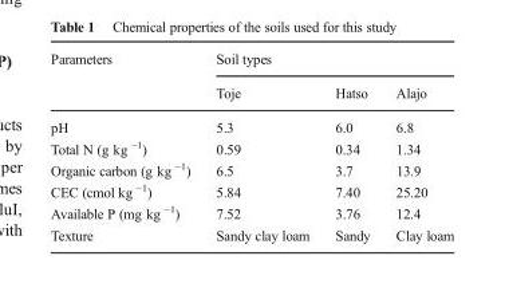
<table><thead><tr><td rowspan="2">Parameters</td><td colspan="3">Soil types</td></tr><tr><td>Toje</td><td>Hatso</td><td>Alajo</td></tr></thead><tbody><tr><td>pH</td><td>5.3</td><td>6.0</td><td>6.8</td></tr><tr><td>Total N (g kg <sup>−1</sup>)</td><td>0.59</td><td>0.34</td><td>1.34</td></tr><tr><td>Organic carbon (g kg <sup>−1</sup>)</td><td>6.5</td><td>3.7</td><td>13.9</td></tr><tr><td>CEC (cmol kg <sup>−1</sup>)</td><td>5.84</td><td>7.40</td><td>25.20</td></tr><tr><td>Available P (mg kg <sup>−1</sup>)</td><td>7.52</td><td>3.76</td><td>12.4</td></tr><tr><td>Texture</td><td>Sandy clay loam</td><td>Sandy</td><td>Clay loam</td></tr></tbody></table>